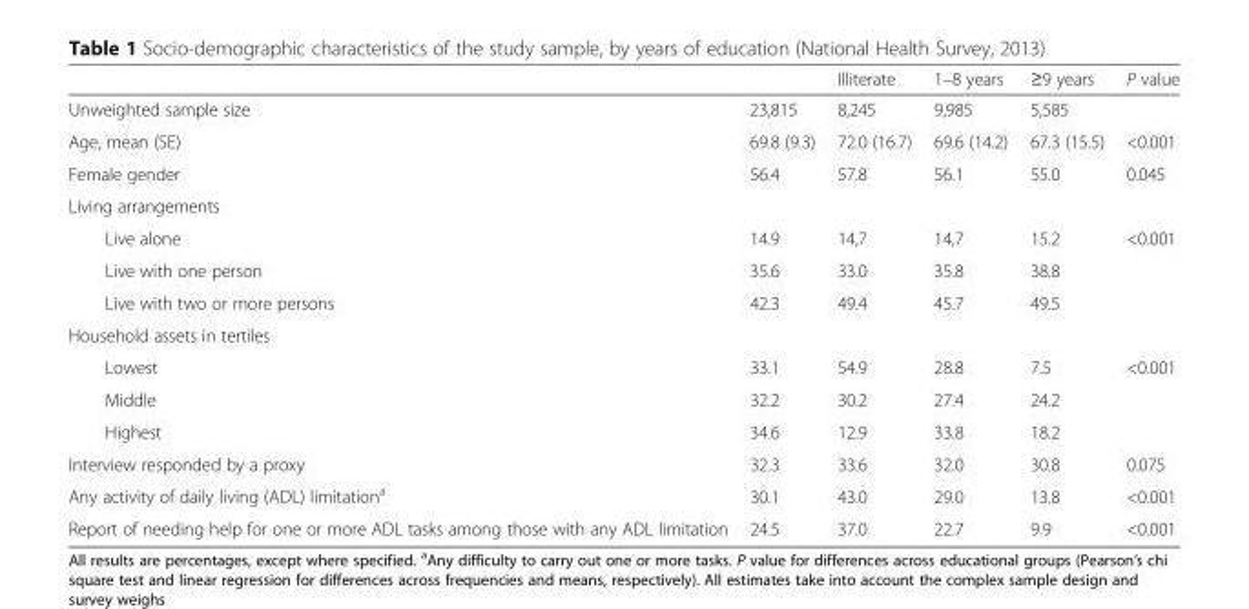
<table><thead><tr><td></td><td></td><td>Illiterate</td><td>1–8 years</td><td>≥9 years</td><td>P value</td></tr></thead><tbody><tr><td>Unweighted sample size</td><td>23,815</td><td>8,245</td><td>9,985</td><td>5,585</td><td></td></tr><tr><td>Age, mean (SE)</td><td>69.8 (9.3)</td><td>72.0 (16.7)</td><td>69.6 (14.2)</td><td>67.3 (15.5)</td><td>&lt;0.001</td></tr><tr><td>Female gender</td><td>56.4</td><td>57.8</td><td>56.1</td><td>55.0</td><td>0.045</td></tr><tr><td colspan="6">Living arrangements</td></tr><tr><td>Live alone</td><td>14.9</td><td>14,7</td><td>14,7</td><td>15.2</td><td>&lt;0.001</td></tr><tr><td>Live with one person</td><td>35.6</td><td>33.0</td><td>35.8</td><td>38.8</td><td></td></tr><tr><td>Live with two or more persons</td><td>42.3</td><td>49.4</td><td>45.7</td><td>49.5</td><td></td></tr><tr><td colspan="6">Household assets in tertiles</td></tr><tr><td>Lowest</td><td>33.1</td><td>54.9</td><td>28.8</td><td>7.5</td><td>&lt;0.001</td></tr><tr><td>Middle</td><td>32.2</td><td>30.2</td><td>27.4</td><td>24.2</td><td></td></tr><tr><td>Highest</td><td>34.6</td><td>12.9</td><td>33.8</td><td>18.2</td><td></td></tr><tr><td>Interview responded by a proxy</td><td>32.3</td><td>33.6</td><td>32.0</td><td>30.8</td><td>0.075</td></tr><tr><td>Any activity of daily living (ADL) limitation<sup>a</sup></td><td>30.1</td><td>43.0</td><td>29.0</td><td>13.8</td><td>&lt;0.001</td></tr><tr><td>Report of needing help for one or more ADL tasks among those with any ADL limitation</td><td>24.5</td><td>37.0</td><td>22.7</td><td>9.9</td><td>&lt;0.001</td></tr></tbody></table>